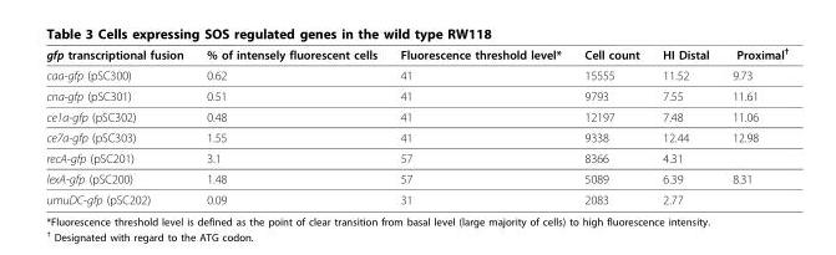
<table><thead><tr><td>gfp transcriptional fusion</td><td>% of intensely fluorescent cells</td><td>Fluorescence threshold level*</td><td>Cell count</td><td>HI Distal</td><td>Proximal<sup>†</sup></td></tr></thead><tbody><tr><td>caa-gfp (pSC300)</td><td>0.62</td><td>41</td><td>15555</td><td>11.52</td><td>9.73</td></tr><tr><td>cna-gfp (pSC301)</td><td>0.51</td><td>41</td><td>9793</td><td>7.55</td><td>11.61</td></tr><tr><td>ce1a-gfp (pSC302)</td><td>0.48</td><td>41</td><td>12197</td><td>7.48</td><td>11.06</td></tr><tr><td>ce7a-gfp (pSC303)</td><td>1.55</td><td>41</td><td>9338</td><td>12.44</td><td>12.98</td></tr><tr><td>recA-gfp (pSC201)</td><td>3.1</td><td>57</td><td>8366</td><td>4.31</td><td></td></tr><tr><td>lexA-gfp (pSC200)</td><td>1.48</td><td>57</td><td>5089</td><td>6.39</td><td>8.31</td></tr><tr><td>umuDC-gfp (pSC202)</td><td>0.09</td><td>31</td><td>2083</td><td>2.77</td><td></td></tr></tbody></table>